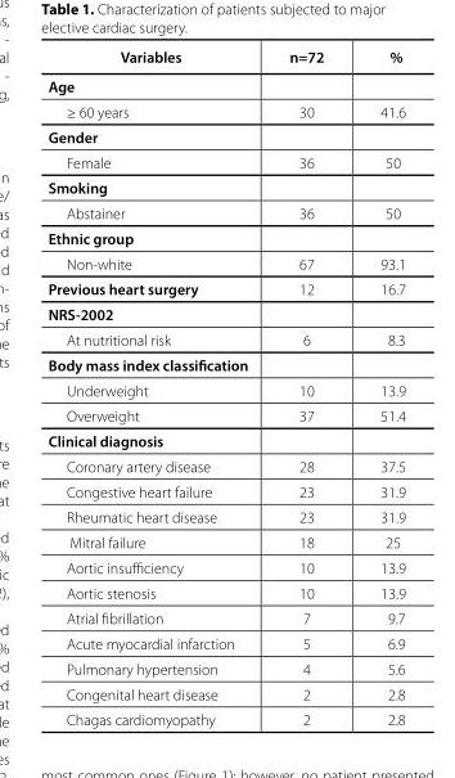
<table><thead><tr><td>Variables</td><td>n=72</td><td>%</td></tr></thead><tbody><tr><td colspan="3">Age</td></tr><tr><td>≥ 60 years</td><td>30</td><td>41.6</td></tr><tr><td colspan="3">Gender</td></tr><tr><td>Female</td><td>36</td><td>50</td></tr><tr><td colspan="3">Smoking</td></tr><tr><td>Abstainer</td><td>36</td><td>50</td></tr><tr><td colspan="3">Ethnic group</td></tr><tr><td>Non-white</td><td>67</td><td>93.1</td></tr><tr><td>Previous heart surgery</td><td>12</td><td>16.7</td></tr><tr><td colspan="3">NRS-2002</td></tr><tr><td>At nutritional risk</td><td>6</td><td>8.3</td></tr><tr><td colspan="3">Body mass index classification</td></tr><tr><td>Underweight</td><td>10</td><td>13.9</td></tr><tr><td>Overweight</td><td>37</td><td>51.4</td></tr><tr><td colspan="3">Clinical diagnosis</td></tr><tr><td>Coronary artery disease</td><td>28</td><td>37.5</td></tr><tr><td>Congestive heart failure</td><td>23</td><td>31.9</td></tr><tr><td>Rheumatic heart disease</td><td>23</td><td>31.9</td></tr><tr><td>Mitral failure</td><td>18</td><td>25</td></tr><tr><td>Aortic insufficiency</td><td>10</td><td>13.9</td></tr><tr><td>Aortic stenosis</td><td>10</td><td>13.9</td></tr><tr><td>Atrial fibrillation</td><td>7</td><td>9.7</td></tr><tr><td>Acute myocardial infarction</td><td>5</td><td>6.9</td></tr><tr><td>Pulmonary hypertension</td><td>4</td><td>5.6</td></tr><tr><td>Congenital heart disease</td><td>2</td><td>2.8</td></tr><tr><td>Chagas cardiomyopathy</td><td>2</td><td>2.8</td></tr></tbody></table>